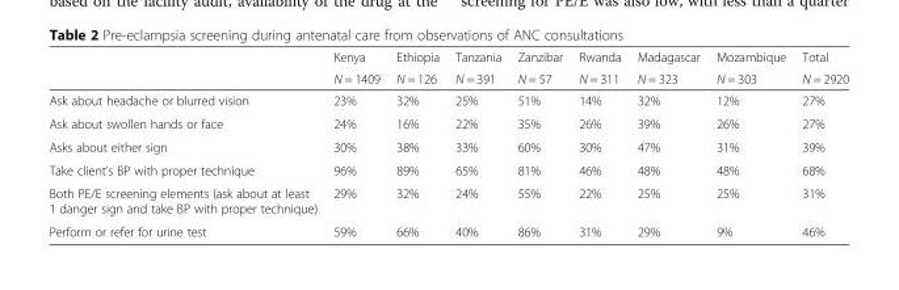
<table><thead><tr><td rowspan="2"></td><td rowspan="2">Kenya N = 1409</td><td rowspan="2">Ethiopia N = 126</td><td rowspan="2">Tanzania N = 391</td><td rowspan="2">Zanzibar N = 57</td><td rowspan="2">Rwanda N = 311</td><td rowspan="2">Madagascar N = 323</td><td rowspan="2">Mozambique N = 303</td><td rowspan="2">Total N = 2920</td></tr><tr></tr></thead><tbody><tr><td>Ask about headache or blurred vision</td><td>23%</td><td>32%</td><td>25%</td><td>51%</td><td>14%</td><td>32%</td><td>12%</td><td>27%</td></tr><tr><td>Ask about swollen hands or face</td><td>24%</td><td>16%</td><td>22%</td><td>35%</td><td>26%</td><td>39%</td><td>26%</td><td>27%</td></tr><tr><td>Asks about either sign</td><td>30%</td><td>38%</td><td>33%</td><td>60%</td><td>30%</td><td>47%</td><td>31%</td><td>39%</td></tr><tr><td>Take client’s BP with proper technique</td><td>96%</td><td>89%</td><td>65%</td><td>81%</td><td>46%</td><td>48%</td><td>48%</td><td>68%</td></tr><tr><td>Both PE/E screening elements (ask about at least 1 danger sign and take BP with proper technique)</td><td>29%</td><td>32%</td><td>24%</td><td>55%</td><td>22%</td><td>25%</td><td>25%</td><td>31%</td></tr><tr><td>Perform or refer for urine test</td><td>59%</td><td>66%</td><td>40%</td><td>86%</td><td>31%</td><td>29%</td><td>9%</td><td>46%</td></tr></tbody></table>